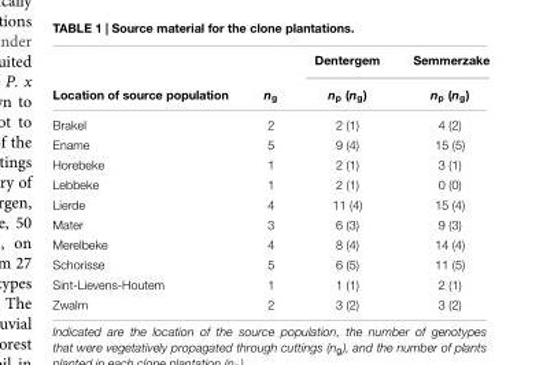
<table><thead><tr><td rowspan="2">Location of source population</td><td rowspan="2">n<sub>g</sub></td><td rowspan="2">Dentergem n<sub>p</sub> (n<sub>g</sub>)</td><td rowspan="2">Semmerzake n<sub>p</sub> (n<sub>g</sub>)</td></tr><tr></tr></thead><tbody><tr><td>Brakel</td><td>2</td><td>2 (1)</td><td>4 (2)</td></tr><tr><td>Ename</td><td>5</td><td>9 (4)</td><td>15 (5)</td></tr><tr><td>Horebeke</td><td>1</td><td>2 (1)</td><td>3 (1)</td></tr><tr><td>Lebbeke</td><td>1</td><td>2 (1)</td><td>0 (0)</td></tr><tr><td>Lierde</td><td>4</td><td>11 (4)</td><td>15 (4)</td></tr><tr><td>Mater</td><td>3</td><td>6 (3)</td><td>9 (3)</td></tr><tr><td>Merelbeke</td><td>4</td><td>8 (4)</td><td>14 (4)</td></tr><tr><td>Schorisse</td><td>5</td><td>6 (5)</td><td>11 (5)</td></tr><tr><td>Sint-Lievens-Houtem</td><td>1</td><td>1 (1)</td><td>2 (1)</td></tr><tr><td>Zwalm</td><td>2</td><td>3 (2)</td><td>3 (2)</td></tr></tbody></table>